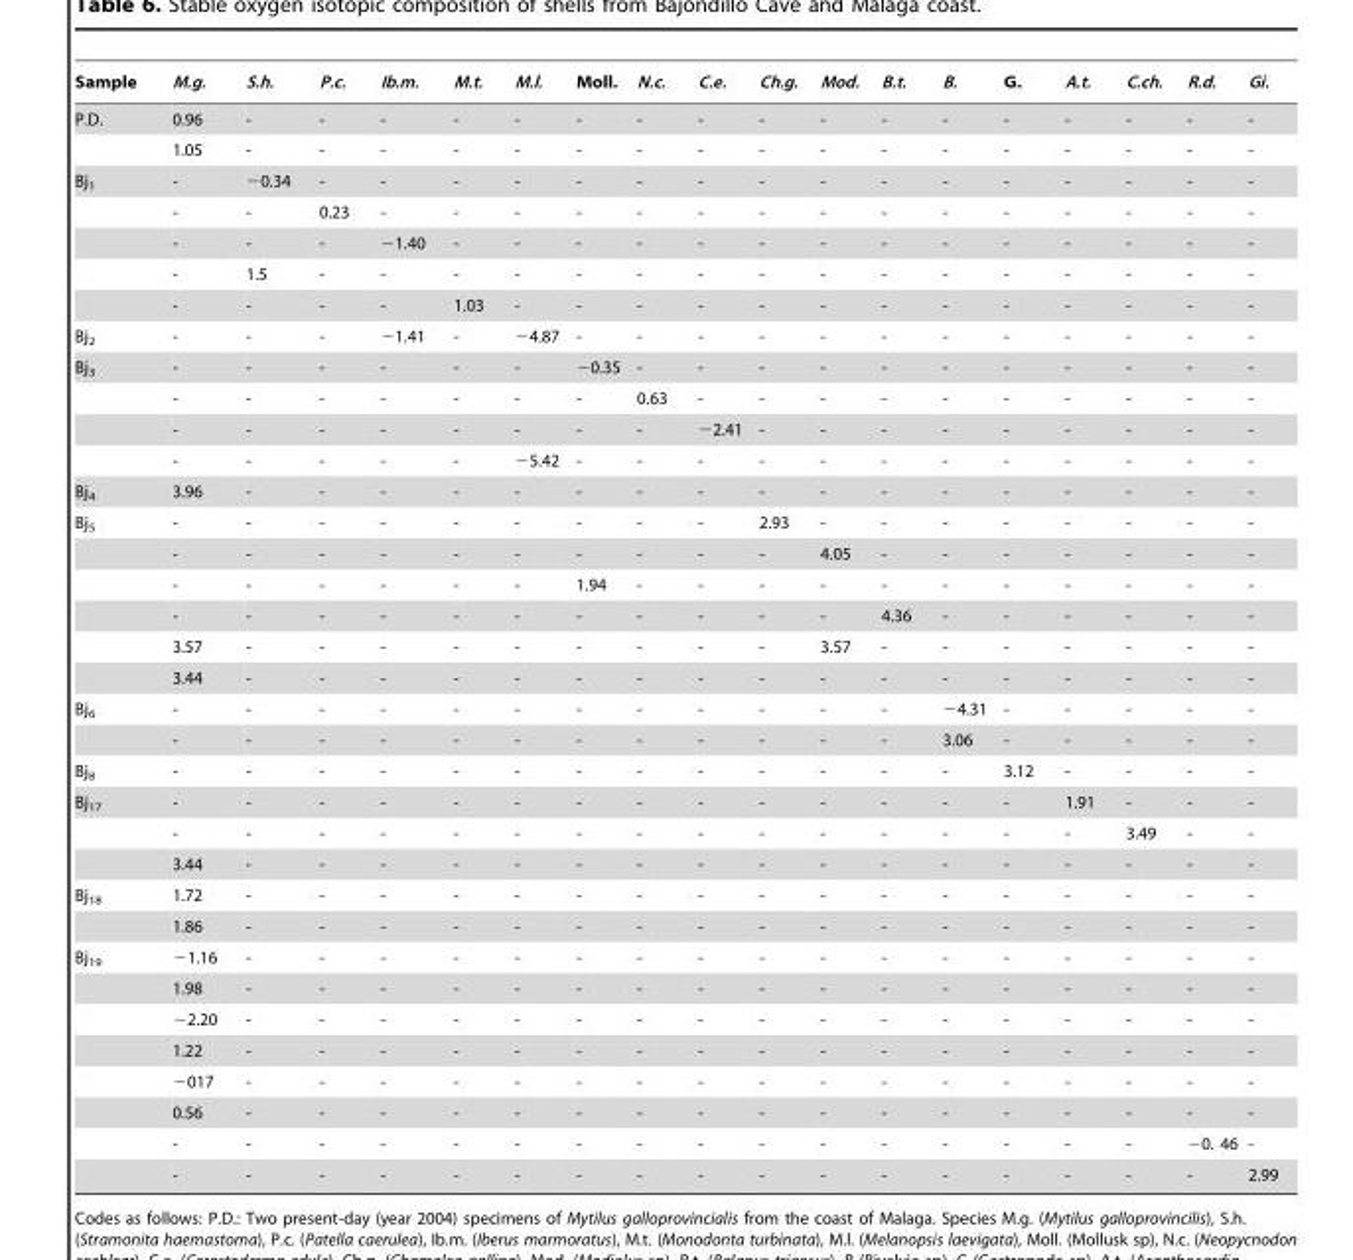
<table><thead><tr><td>Sample</td><td>M.g.</td><td>S.h.</td><td>P.c.</td><td>Ib.m.</td><td>M.t.</td><td>M.l.</td><td>Moll.</td><td>N.c.</td><td>C.e.</td><td>Ch.g.</td><td>Mod.</td><td>B.t.</td><td>B.</td><td>G.</td><td>A.t.</td><td>C.ch.</td><td>R.d.</td><td>Gi.</td></tr></thead><tbody><tr><td rowspan="2">P.D.</td><td>0.96</td><td>-</td><td>-</td><td>-</td><td>-</td><td>-</td><td>-</td><td>-</td><td>-</td><td>-</td><td>-</td><td>-</td><td>-</td><td>-</td><td>-</td><td>-</td><td>-</td><td>-</td></tr><tr><td>1.05</td><td>-</td><td>-</td><td>-</td><td>-</td><td>-</td><td>-</td><td>-</td><td>-</td><td>-</td><td>-</td><td>-</td><td>-</td><td>-</td><td>-</td><td>-</td><td>-</td><td>-</td></tr><tr><td rowspan="5">Bj<sub>1</sub></td><td>-</td><td>−0.34</td><td>-</td><td>-</td><td>-</td><td>-</td><td>-</td><td>-</td><td>-</td><td>-</td><td>-</td><td>-</td><td>-</td><td>-</td><td>-</td><td>-</td><td>-</td><td>-</td></tr><tr><td>-</td><td>-</td><td>0.23</td><td>-</td><td>-</td><td>-</td><td>-</td><td>-</td><td>-</td><td>-</td><td>-</td><td>-</td><td>-</td><td>-</td><td>-</td><td>-</td><td>-</td><td>-</td></tr><tr><td>-</td><td>-</td><td>-</td><td>−1.40</td><td>-</td><td>-</td><td>-</td><td>-</td><td>-</td><td>-</td><td>-</td><td>-</td><td>-</td><td>-</td><td>-</td><td>-</td><td>-</td><td>-</td></tr><tr><td>-</td><td>1.5</td><td>-</td><td>-</td><td>-</td><td>-</td><td>-</td><td>-</td><td>-</td><td>-</td><td>-</td><td>-</td><td>-</td><td>-</td><td>-</td><td>-</td><td>-</td><td>-</td></tr><tr><td>-</td><td>-</td><td>-</td><td>-</td><td>1.03</td><td>-</td><td>-</td><td>-</td><td>-</td><td>-</td><td>-</td><td>-</td><td>-</td><td>-</td><td>-</td><td>-</td><td>-</td><td>-</td></tr><tr><td>Bj<sub>2</sub></td><td>-</td><td>-</td><td>-</td><td>−1.41</td><td>-</td><td>−4.87</td><td>-</td><td>-</td><td>-</td><td>-</td><td>-</td><td>-</td><td>-</td><td>-</td><td>-</td><td>-</td><td>-</td><td>-</td></tr><tr><td rowspan="4">Bj<sub>3</sub></td><td>-</td><td>-</td><td>-</td><td>-</td><td>-</td><td>-</td><td>−0.35</td><td>-</td><td>-</td><td>-</td><td>-</td><td>-</td><td>-</td><td>-</td><td>-</td><td>-</td><td>-</td><td>-</td></tr><tr><td>-</td><td>-</td><td>-</td><td>-</td><td>-</td><td>-</td><td>-</td><td>0.63</td><td>-</td><td>-</td><td>-</td><td>-</td><td>-</td><td>-</td><td>-</td><td>-</td><td>-</td><td>-</td></tr><tr><td>-</td><td>-</td><td>-</td><td>-</td><td>-</td><td>-</td><td>-</td><td>-</td><td>−2.41</td><td>-</td><td>-</td><td>-</td><td>-</td><td>-</td><td>-</td><td>-</td><td>-</td><td>-</td></tr><tr><td>-</td><td>-</td><td>-</td><td>-</td><td>-</td><td>−5.42</td><td>-</td><td>-</td><td>-</td><td>-</td><td>-</td><td>-</td><td>-</td><td>-</td><td>-</td><td>-</td><td>-</td><td>-</td></tr><tr><td>Bj<sub>4</sub></td><td>3.96</td><td>-</td><td>-</td><td>-</td><td>-</td><td>-</td><td>-</td><td>-</td><td>-</td><td>-</td><td>-</td><td>-</td><td>-</td><td>-</td><td>-</td><td>-</td><td>-</td><td>-</td></tr><tr><td rowspan="6">Bj<sub>5</sub></td><td>-</td><td>-</td><td>-</td><td>-</td><td>-</td><td>-</td><td>-</td><td>-</td><td>-</td><td>2.93</td><td>-</td><td>-</td><td>-</td><td>-</td><td>-</td><td>-</td><td>-</td><td>-</td></tr><tr><td>-</td><td>-</td><td>-</td><td>-</td><td>-</td><td>-</td><td>-</td><td>-</td><td>-</td><td>-</td><td>4.05</td><td>-</td><td>-</td><td>-</td><td>-</td><td>-</td><td>-</td><td>-</td></tr><tr><td>-</td><td>-</td><td>-</td><td>-</td><td>-</td><td>-</td><td>1.94</td><td>-</td><td>-</td><td>-</td><td>-</td><td>-</td><td>-</td><td>-</td><td>-</td><td>-</td><td>-</td><td>-</td></tr><tr><td>-</td><td>-</td><td>-</td><td>-</td><td>-</td><td>-</td><td>-</td><td>-</td><td>-</td><td>-</td><td>-</td><td>4.36</td><td>-</td><td>-</td><td>-</td><td>-</td><td>-</td><td>-</td></tr><tr><td>3.57</td><td>-</td><td>-</td><td>-</td><td>-</td><td>-</td><td>-</td><td>-</td><td>-</td><td>-</td><td>3.57</td><td>-</td><td>-</td><td>-</td><td>-</td><td>-</td><td>-</td><td>-</td></tr><tr><td>3.44</td><td>-</td><td>-</td><td>-</td><td>-</td><td>-</td><td>-</td><td>-</td><td>-</td><td>-</td><td>-</td><td>-</td><td>-</td><td>-</td><td>-</td><td>-</td><td>-</td><td>-</td></tr><tr><td rowspan="2">Bj<sub>6</sub></td><td>-</td><td>-</td><td>-</td><td>-</td><td>-</td><td>-</td><td>-</td><td>-</td><td>-</td><td>-</td><td>-</td><td>-</td><td>−4.31</td><td>-</td><td>-</td><td>-</td><td>-</td><td>-</td></tr><tr><td>-</td><td>-</td><td>-</td><td>-</td><td>-</td><td>-</td><td>-</td><td>-</td><td>-</td><td>-</td><td>-</td><td>-</td><td>3.06</td><td>-</td><td>-</td><td>-</td><td>-</td><td>-</td></tr><tr><td>Bj<sub>8</sub></td><td>-</td><td>-</td><td>-</td><td>-</td><td>-</td><td>-</td><td>-</td><td>-</td><td>-</td><td>-</td><td>-</td><td>-</td><td>-</td><td>3.12</td><td>-</td><td>-</td><td>-</td><td>-</td></tr><tr><td rowspan="3">Bj<sub>17</sub></td><td>-</td><td>-</td><td>-</td><td>-</td><td>-</td><td>-</td><td>-</td><td>-</td><td>-</td><td>-</td><td>-</td><td>-</td><td>-</td><td>-</td><td>1.91</td><td>-</td><td>-</td><td>-</td></tr><tr><td>-</td><td>-</td><td>-</td><td>-</td><td>-</td><td>-</td><td>-</td><td>-</td><td>-</td><td>-</td><td>-</td><td>-</td><td>-</td><td>-</td><td>-</td><td>3.49</td><td>-</td><td>-</td></tr><tr><td>3.44</td><td>-</td><td>-</td><td>-</td><td>-</td><td>-</td><td>-</td><td>-</td><td>-</td><td>-</td><td>-</td><td>-</td><td>-</td><td>-</td><td>-</td><td>-</td><td>-</td><td>-</td></tr><tr><td rowspan="2">Bj<sub>18</sub></td><td>1.72</td><td>-</td><td>-</td><td>-</td><td>-</td><td>-</td><td>-</td><td>-</td><td>-</td><td>-</td><td>-</td><td>-</td><td>-</td><td>-</td><td>-</td><td>-</td><td>-</td><td>-</td></tr><tr><td>1.86</td><td>-</td><td>-</td><td>-</td><td>-</td><td>-</td><td>-</td><td>-</td><td>-</td><td>-</td><td>-</td><td>-</td><td>-</td><td>-</td><td>-</td><td>-</td><td>-</td><td>-</td></tr><tr><td rowspan="8">Bj<sub>19</sub></td><td>−1.16</td><td>-</td><td>-</td><td>-</td><td>-</td><td>-</td><td>-</td><td>-</td><td>-</td><td>-</td><td>-</td><td>-</td><td>-</td><td>-</td><td>-</td><td>-</td><td>-</td><td>-</td></tr><tr><td>1.98</td><td>-</td><td>-</td><td>-</td><td>-</td><td>-</td><td>-</td><td>-</td><td>-</td><td>-</td><td>-</td><td>-</td><td>-</td><td>-</td><td>-</td><td>-</td><td>-</td><td>-</td></tr><tr><td>−2.20</td><td>-</td><td>-</td><td>-</td><td>-</td><td>-</td><td>-</td><td>-</td><td>-</td><td>-</td><td>-</td><td>-</td><td>-</td><td>-</td><td>-</td><td>-</td><td>-</td><td>-</td></tr><tr><td>1.22</td><td>-</td><td>-</td><td>-</td><td>-</td><td>-</td><td>-</td><td>-</td><td>-</td><td>-</td><td>-</td><td>-</td><td>-</td><td>-</td><td>-</td><td>-</td><td>-</td><td>-</td></tr><tr><td>−017</td><td>-</td><td>-</td><td>-</td><td>-</td><td>-</td><td>-</td><td>-</td><td>-</td><td>-</td><td>-</td><td>-</td><td>-</td><td>-</td><td>-</td><td>-</td><td>-</td><td>-</td></tr><tr><td>0.56</td><td>-</td><td>-</td><td>-</td><td>-</td><td>-</td><td>-</td><td>-</td><td>-</td><td>-</td><td>-</td><td>-</td><td>-</td><td>-</td><td>-</td><td>-</td><td>-</td><td>-</td></tr><tr><td>-</td><td>-</td><td>-</td><td>-</td><td>-</td><td>-</td><td>-</td><td>-</td><td>-</td><td>-</td><td>-</td><td>-</td><td>-</td><td>-</td><td>-</td><td>-</td><td>−0. 46</td><td>-</td></tr><tr><td>-</td><td>-</td><td>-</td><td>-</td><td>-</td><td>-</td><td>-</td><td>-</td><td>-</td><td>-</td><td>-</td><td>-</td><td>-</td><td>-</td><td>-</td><td>-</td><td>-</td><td>2.99</td></tr></tbody></table>